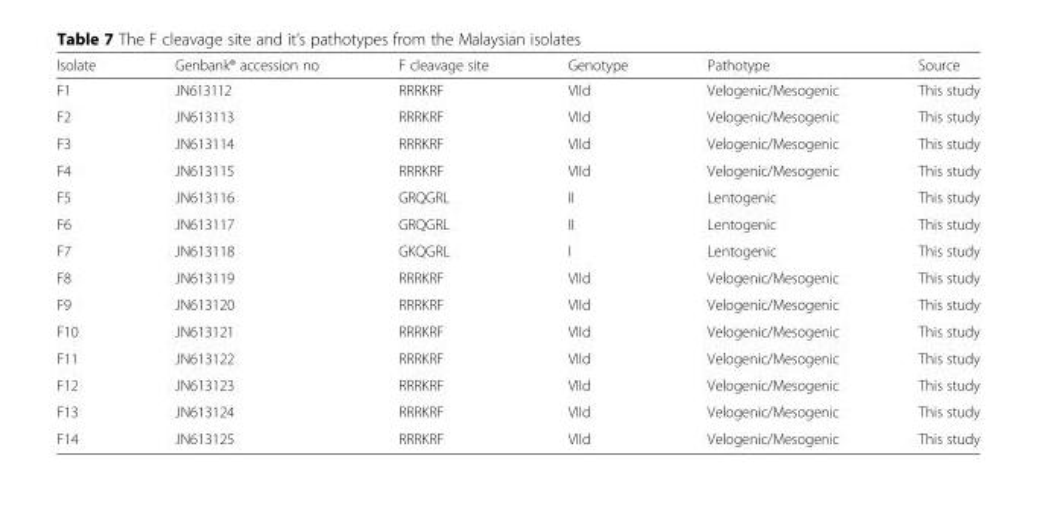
<table><thead><tr><td>Isolate</td><td>Genbank® accession no</td><td>F cleavage site</td><td>Genotype</td><td>Pathotype</td><td>Source</td></tr></thead><tbody><tr><td>F1</td><td>JN613112</td><td>RRRKRF</td><td>VIId</td><td>Velogenic/Mesogenic</td><td>This study</td></tr><tr><td>F2</td><td>JN613113</td><td>RRRKRF</td><td>VIId</td><td>Velogenic/Mesogenic</td><td>This study</td></tr><tr><td>F3</td><td>JN613114</td><td>RRRKRF</td><td>VIId</td><td>Velogenic/Mesogenic</td><td>This study</td></tr><tr><td>F4</td><td>JN613115</td><td>RRRKRF</td><td>VIId</td><td>Velogenic/Mesogenic</td><td>This study</td></tr><tr><td>F5</td><td>JN613116</td><td>GRQGRL</td><td>II</td><td>Lentogenic</td><td>This study</td></tr><tr><td>F6</td><td>JN613117</td><td>GRQGRL</td><td>II</td><td>Lentogenic</td><td>This study</td></tr><tr><td>F7</td><td>JN613118</td><td>GKQGRL</td><td>I</td><td>Lentogenic</td><td>This study</td></tr><tr><td>F8</td><td>JN613119</td><td>RRRKRF</td><td>VIId</td><td>Velogenic/Mesogenic</td><td>This study</td></tr><tr><td>F9</td><td>JN613120</td><td>RRRKRF</td><td>VIId</td><td>Velogenic/Mesogenic</td><td>This study</td></tr><tr><td>F10</td><td>JN613121</td><td>RRRKRF</td><td>VIId</td><td>Velogenic/Mesogenic</td><td>This study</td></tr><tr><td>F11</td><td>JN613122</td><td>RRRKRF</td><td>VIId</td><td>Velogenic/Mesogenic</td><td>This study</td></tr><tr><td>F12</td><td>JN613123</td><td>RRRKRF</td><td>VIId</td><td>Velogenic/Mesogenic</td><td>This study</td></tr><tr><td>F13</td><td>JN613124</td><td>RRRKRF</td><td>VIId</td><td>Velogenic/Mesogenic</td><td>This study</td></tr><tr><td>F14</td><td>JN613125</td><td>RRRKRF</td><td>VIId</td><td>Velogenic/Mesogenic</td><td>This study</td></tr></tbody></table>